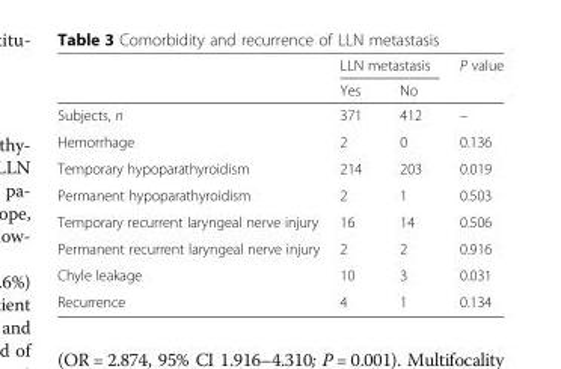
<table><thead><tr><td rowspan="2"></td><td colspan="2">LLN metastasis</td><td rowspan="2">P value</td></tr><tr><td>Yes</td><td>No</td></tr></thead><tbody><tr><td>Subjects, n</td><td>371</td><td>412</td><td>–</td></tr><tr><td>Hemorrhage</td><td>2</td><td>0</td><td>0.136</td></tr><tr><td>Temporary hypoparathyroidism</td><td>214</td><td>203</td><td>0.019</td></tr><tr><td>Permanent hypoparathyroidism</td><td>2</td><td>1</td><td>0.503</td></tr><tr><td>Temporary recurrent laryngeal nerve injury</td><td>16</td><td>14</td><td>0.506</td></tr><tr><td>Permanent recurrent laryngeal nerve injury</td><td>2</td><td>2</td><td>0.916</td></tr><tr><td>Chyle leakage</td><td>10</td><td>3</td><td>0.031</td></tr><tr><td>Recurrence</td><td>4</td><td>1</td><td>0.134</td></tr></tbody></table>